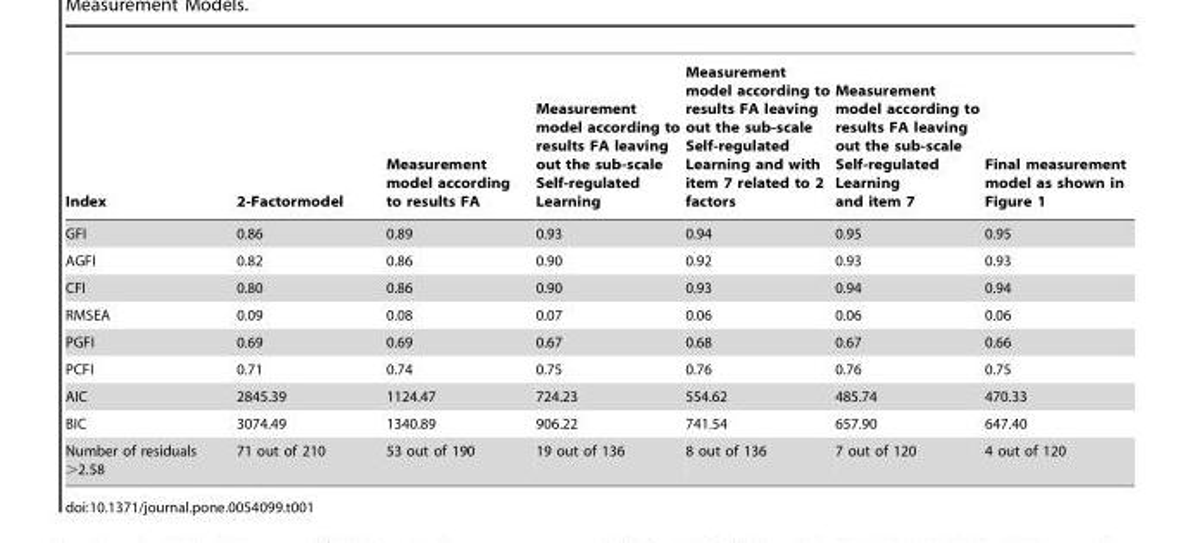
<table><thead><tr><td>Index</td><td>2-Factormodel</td><td>Measurement model according to results FA</td><td>Measurement model according to results FA leaving out the sub-scale Self-regulated Learning</td><td>Measurement model according to results FA leaving out the sub-scale Self-regulated Learning and with item 7 related to 2 factors</td><td>Measurement model according to results FA leaving out the sub-scale Self-regulated Learning and item 7</td><td>Final measurement model as shown in Figure 1</td></tr></thead><tbody><tr><td>GFI</td><td>0.86</td><td>0.89</td><td>0.93</td><td>0.94</td><td>0.95</td><td>0.95</td></tr><tr><td>AGFI</td><td>0.82</td><td>0.86</td><td>0.90</td><td>0.92</td><td>0.93</td><td>0.93</td></tr><tr><td>CFI</td><td>0.80</td><td>0.86</td><td>0.90</td><td>0.93</td><td>0.94</td><td>0.94</td></tr><tr><td>RMSEA</td><td>0.09</td><td>0.08</td><td>0.07</td><td>0.06</td><td>0.06</td><td>0.06</td></tr><tr><td>PGFI</td><td>0.69</td><td>0.69</td><td>0.67</td><td>0.68</td><td>0.67</td><td>0.66</td></tr><tr><td>PCFI</td><td>0.71</td><td>0.74</td><td>0.75</td><td>0.76</td><td>0.76</td><td>0.75</td></tr><tr><td>AIC</td><td>2845.39</td><td>1124.47</td><td>724.23</td><td>554.62</td><td>485.74</td><td>470.33</td></tr><tr><td>BIC</td><td>3074.49</td><td>1340.89</td><td>906.22</td><td>741.54</td><td>657.90</td><td>647.40</td></tr><tr><td>Number of residuals &gt;2.58</td><td>71 out of 210</td><td>53 out of 190</td><td>19 out of 136</td><td>8 out of 136</td><td>7 out of 120</td><td>4 out of 120</td></tr></tbody></table>